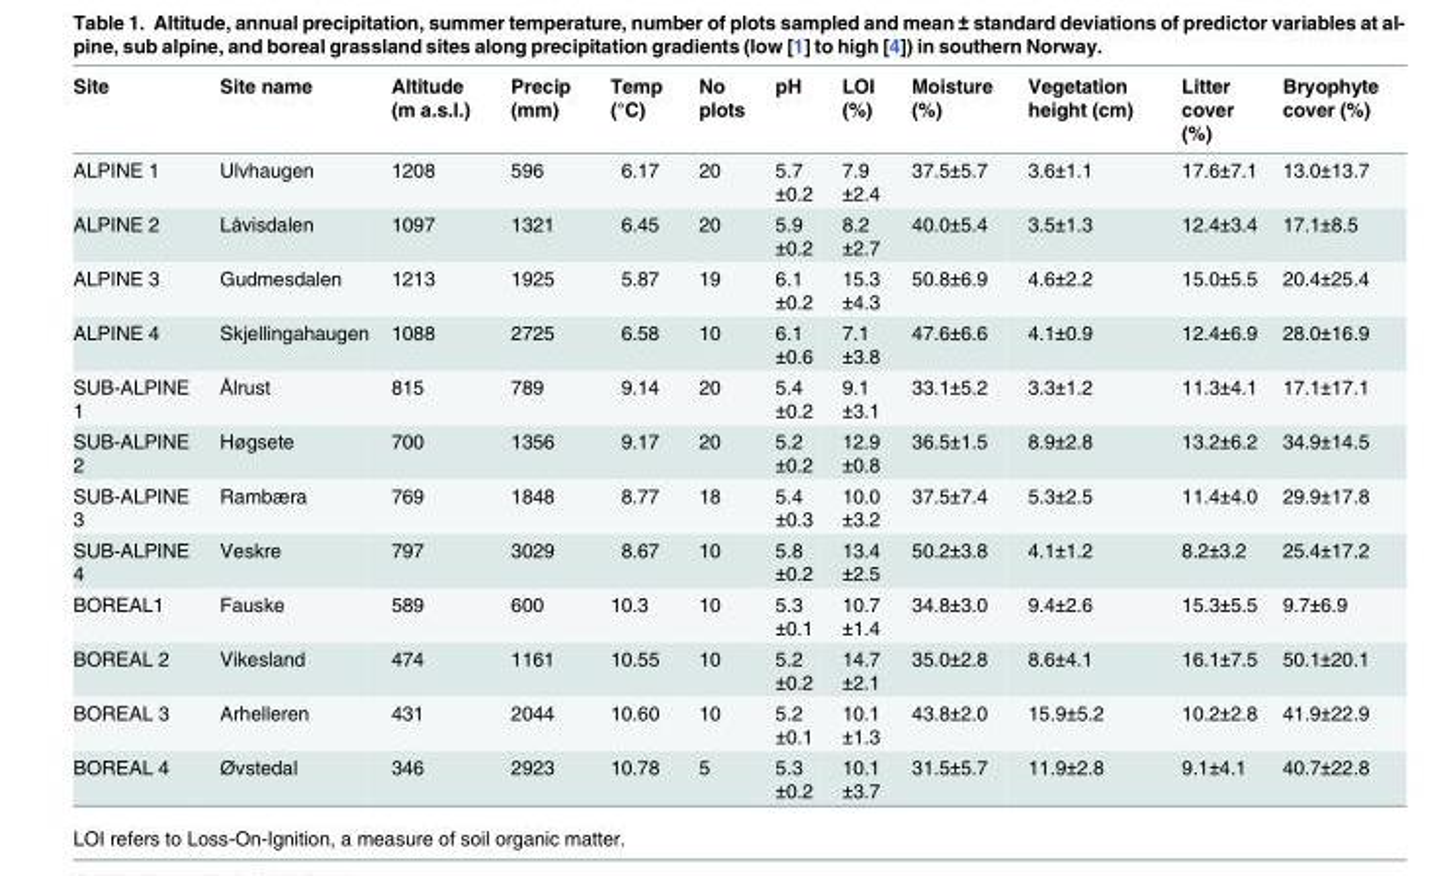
<table><thead><tr><td>Site</td><td>Site name</td><td>Altitude (m a.s.l.)</td><td>Precip (mm)</td><td>Temp (°C)</td><td>No plots</td><td>pH</td><td>LOI (%)</td><td>Moisture (%)</td><td>Vegetation height (cm)</td><td>Litter cover (%)</td><td>Bryophyte cover (%)</td></tr></thead><tbody><tr><td>ALPINE 1</td><td>Ulvhaugen</td><td>1208</td><td>596</td><td>6.17</td><td>20</td><td>5.7 ±0.2</td><td>7.9 ±2.4</td><td>37.5±5.7</td><td>3.6±1.1</td><td>17.6±7.1</td><td>13.0±13.7</td></tr><tr><td>ALPINE 2</td><td>Låvisdalen</td><td>1097</td><td>1321</td><td>6.45</td><td>20</td><td>5.9 ±0.2</td><td>8.2 ±2.7</td><td>40.0±5.4</td><td>3.5±1.3</td><td>12.4±3.4</td><td>17.1±8.5</td></tr><tr><td>ALPINE 3</td><td>Gudmesdalen</td><td>1213</td><td>1925</td><td>5.87</td><td>19</td><td>6.1 ±0.2</td><td>15.3 ±4.3</td><td>50.8±6.9</td><td>4.6±2.2</td><td>15.0±5.5</td><td>20.4±25.4</td></tr><tr><td>ALPINE 4</td><td>Skjellingahaugen</td><td>1088</td><td>2725</td><td>6.58</td><td>10</td><td>6.1 ±0.6</td><td>7.1 ±3.8</td><td>47.6±6.6</td><td>4.1±0.9</td><td>12.4±6.9</td><td>28.0±16.9</td></tr><tr><td>SUB-ALPINE 1</td><td>Ålrust</td><td>815</td><td>789</td><td>9.14</td><td>20</td><td>5.4 ±0.2</td><td>9.1 ±3.1</td><td>33.1±5.2</td><td>3.3±1.2</td><td>11.3±4.1</td><td>17.1±17.1</td></tr><tr><td>SUB-ALPINE 2</td><td>Høgsete</td><td>700</td><td>1356</td><td>9.17</td><td>20</td><td>5.2 ±0.2</td><td>12.9 ±0.8</td><td>36.5±1.5</td><td>8.9±2.8</td><td>13.2±6.2</td><td>34.9±14.5</td></tr><tr><td>SUB-ALPINE 3</td><td>Rambæra</td><td>769</td><td>1848</td><td>8.77</td><td>18</td><td>5.4 ±0.3</td><td>10.0 ±3.2</td><td>37.5±7.4</td><td>5.3±2.5</td><td>11.4±4.0</td><td>29.9±17.8</td></tr><tr><td>SUB-ALPINE 4</td><td>Veskre</td><td>797</td><td>3029</td><td>8.67</td><td>10</td><td>5.8 ±0.2</td><td>13.4 ±2.5</td><td>50.2±3.8</td><td>4.1±1.2</td><td>8.2±3.2</td><td>25.4±17.2</td></tr><tr><td>BOREAL1</td><td>Fauske</td><td>589</td><td>600</td><td>10.3</td><td>10</td><td>5.3 ±0.1</td><td>10.7 ±1.4</td><td>34.8±3.0</td><td>9.4±2.6</td><td>15.3±5.5</td><td>9.7±6.9</td></tr><tr><td>BOREAL 2</td><td>Vikesland</td><td>474</td><td>1161</td><td>10.55</td><td>10</td><td>5.2 ±0.2</td><td>14.7 ±2.1</td><td>35.0±2.8</td><td>8.6±4.1</td><td>16.1±7.5</td><td>50.1±20.1</td></tr><tr><td>BOREAL 3</td><td>Arhelleren</td><td>431</td><td>2044</td><td>10.60</td><td>10</td><td>5.2 ±0.1</td><td>10.1 ±1.3</td><td>43.8±2.0</td><td>15.9±5.2</td><td>10.2±2.8</td><td>41.9±22.9</td></tr><tr><td>BOREAL 4</td><td>Øvstedal</td><td>346</td><td>2923</td><td>10.78</td><td>5</td><td>5.3 ±0.2</td><td>10.1 ±3.7</td><td>31.5±5.7</td><td>11.9±2.8</td><td>9.1±4.1</td><td>40.7±22.8</td></tr></tbody></table>